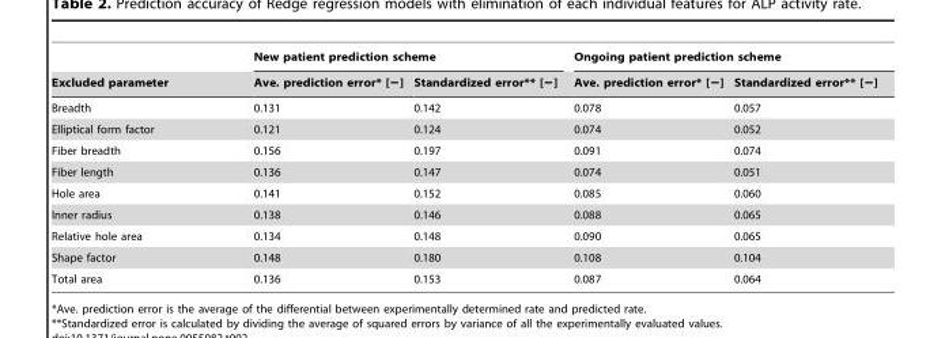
<table><thead><tr><td rowspan="2">Excluded parameter</td><td colspan="2">New patient prediction scheme</td><td colspan="2">Ongoing patient prediction scheme</td></tr><tr><td>Ave. prediction error* [−]</td><td>Standardized error** [−]</td><td>Ave. prediction error* [−]</td><td>Standardized error** [−]</td></tr></thead><tbody><tr><td>Breadth</td><td>0.131</td><td>0.142</td><td>0.078</td><td>0.057</td></tr><tr><td>Elliptical form factor</td><td>0.121</td><td>0.124</td><td>0.074</td><td>0.052</td></tr><tr><td>Fiber breadth</td><td>0.156</td><td>0.197</td><td>0.091</td><td>0.074</td></tr><tr><td>Fiber length</td><td>0.136</td><td>0.147</td><td>0.074</td><td>0.051</td></tr><tr><td>Hole area</td><td>0.141</td><td>0.152</td><td>0.085</td><td>0.060</td></tr><tr><td>Inner radius</td><td>0.138</td><td>0.146</td><td>0.088</td><td>0.065</td></tr><tr><td>Relative hole area</td><td>0.134</td><td>0.148</td><td>0.090</td><td>0.065</td></tr><tr><td>Shape factor</td><td>0.148</td><td>0.180</td><td>0.108</td><td>0.104</td></tr><tr><td>Total area</td><td>0.136</td><td>0.153</td><td>0.087</td><td>0.064</td></tr></tbody></table>